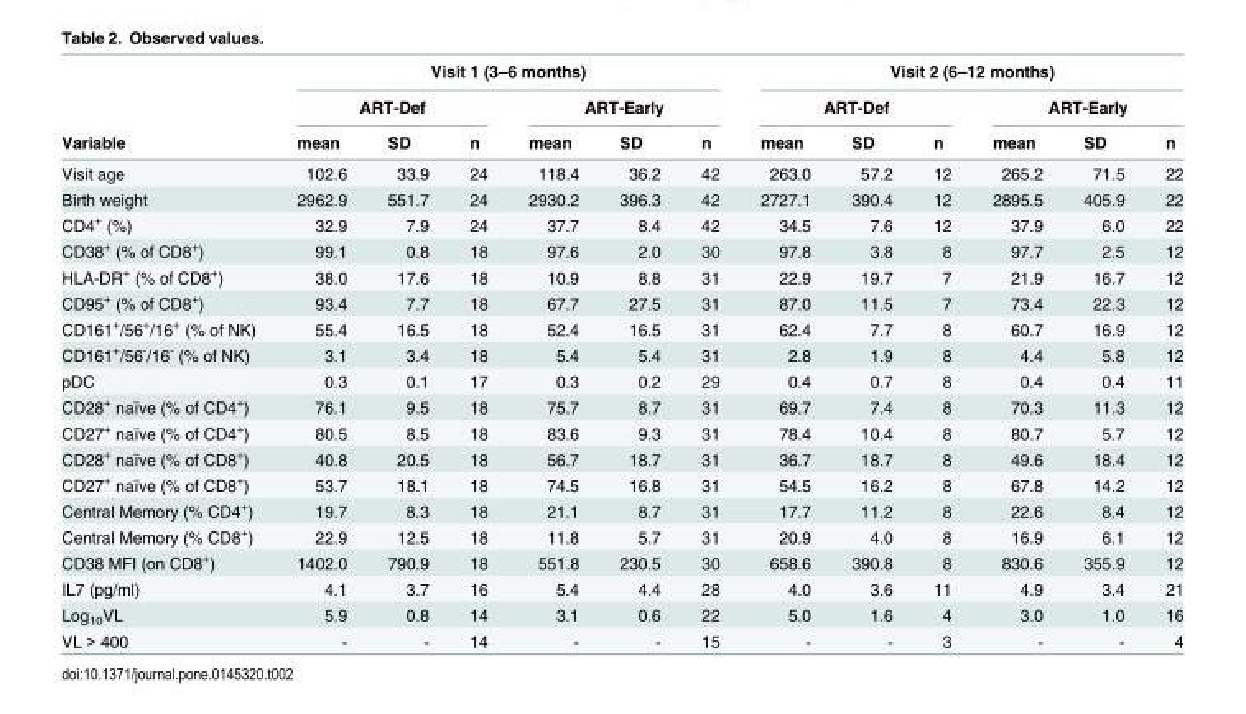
<table><thead><tr><td rowspan="3">Variable</td><td colspan="6">Visit 1 (3–6 months)</td><td colspan="6">Visit 2 (6–12 months)</td></tr><tr><td colspan="3">ART-Def</td><td colspan="3">ART-Early</td><td colspan="3">ART-Def</td><td colspan="3">ART-Early</td></tr><tr><td>mean</td><td>SD</td><td>n</td><td>mean</td><td>SD</td><td>n</td><td>mean</td><td>SD</td><td>n</td><td>mean</td><td>SD</td><td>n</td></tr></thead><tbody><tr><td>Visit age</td><td>102.6</td><td>33.9</td><td>24</td><td>118.4</td><td>36.2</td><td>42</td><td>263.0</td><td>57.2</td><td>12</td><td>265.2</td><td>71.5</td><td>22</td></tr><tr><td>Birth weight</td><td>2962.9</td><td>551.7</td><td>24</td><td>2930.2</td><td>396.3</td><td>42</td><td>2727.1</td><td>390.4</td><td>12</td><td>2895.5</td><td>405.9</td><td>22</td></tr><tr><td>CD4<sup>+</sup> (%)</td><td>32.9</td><td>7.9</td><td>24</td><td>37.7</td><td>8.4</td><td>42</td><td>34.5</td><td>7.6</td><td>12</td><td>37.9</td><td>6.0</td><td>22</td></tr><tr><td>CD38<sup>+</sup> (% of CD8<sup>+</sup>)</td><td>99.1</td><td>0.8</td><td>18</td><td>97.6</td><td>2.0</td><td>30</td><td>97.8</td><td>3.8</td><td>8</td><td>97.7</td><td>2.5</td><td>12</td></tr><tr><td>HLA-DR<sup>+</sup> (% of CD8<sup>+</sup>)</td><td>38.0</td><td>17.6</td><td>18</td><td>10.9</td><td>8.8</td><td>31</td><td>22.9</td><td>19.7</td><td>7</td><td>21.9</td><td>16.7</td><td>12</td></tr><tr><td>CD95<sup>+</sup> (% of CD8<sup>+</sup>)</td><td>93.4</td><td>7.7</td><td>18</td><td>67.7</td><td>27.5</td><td>31</td><td>87.0</td><td>11.5</td><td>7</td><td>73.4</td><td>22.3</td><td>12</td></tr><tr><td>CD161<sup>+</sup>/56<sup>+</sup>/16<sup>+</sup> (% of NK)</td><td>55.4</td><td>16.5</td><td>18</td><td>52.4</td><td>16.5</td><td>31</td><td>62.4</td><td>7.7</td><td>8</td><td>60.7</td><td>16.9</td><td>12</td></tr><tr><td>CD161<sup>+</sup>/56<sup>-</sup>/16<sup>-</sup> (% of NK)</td><td>3.1</td><td>3.4</td><td>18</td><td>5.4</td><td>5.4</td><td>31</td><td>2.8</td><td>1.9</td><td>8</td><td>4.4</td><td>5.8</td><td>12</td></tr><tr><td>pDC</td><td>0.3</td><td>0.1</td><td>17</td><td>0.3</td><td>0.2</td><td>29</td><td>0.4</td><td>0.7</td><td>8</td><td>0.4</td><td>0.4</td><td>11</td></tr><tr><td>CD28<sup>+</sup> naïve (% of CD4<sup>+</sup>)</td><td>76.1</td><td>9.5</td><td>18</td><td>75.7</td><td>8.7</td><td>31</td><td>69.7</td><td>7.4</td><td>8</td><td>70.3</td><td>11.3</td><td>12</td></tr><tr><td>CD27<sup>+</sup> naïve (% of CD4<sup>+</sup>)</td><td>80.5</td><td>8.5</td><td>18</td><td>83.6</td><td>9.3</td><td>31</td><td>78.4</td><td>10.4</td><td>8</td><td>80.7</td><td>5.7</td><td>12</td></tr><tr><td>CD28<sup>+</sup> naïve (% of CD8<sup>+</sup>)</td><td>40.8</td><td>20.5</td><td>18</td><td>56.7</td><td>18.7</td><td>31</td><td>36.7</td><td>18.7</td><td>8</td><td>49.6</td><td>18.4</td><td>12</td></tr><tr><td>CD27<sup>+</sup> naïve (% of CD8<sup>+</sup>)</td><td>53.7</td><td>18.1</td><td>18</td><td>74.5</td><td>16.8</td><td>31</td><td>54.5</td><td>16.2</td><td>8</td><td>67.8</td><td>14.2</td><td>12</td></tr><tr><td>Central Memory (% CD4<sup>+</sup>)</td><td>19.7</td><td>8.3</td><td>18</td><td>21.1</td><td>8.7</td><td>31</td><td>17.7</td><td>11.2</td><td>8</td><td>22.6</td><td>8.4</td><td>12</td></tr><tr><td>Central Memory (% CD8<sup>+</sup>)</td><td>22.9</td><td>12.5</td><td>18</td><td>11.8</td><td>5.7</td><td>31</td><td>20.9</td><td>4.0</td><td>8</td><td>16.9</td><td>6.1</td><td>12</td></tr><tr><td>CD38 MFI (on CD8<sup>+</sup>)</td><td>1402.0</td><td>790.9</td><td>18</td><td>551.8</td><td>230.5</td><td>30</td><td>658.6</td><td>390.8</td><td>8</td><td>830.6</td><td>355.9</td><td>12</td></tr><tr><td>IL7 (pg/ml)</td><td>4.1</td><td>3.7</td><td>16</td><td>5.4</td><td>4.4</td><td>28</td><td>4.0</td><td>3.6</td><td>11</td><td>4.9</td><td>3.4</td><td>21</td></tr><tr><td>Log<sub>10</sub>VL</td><td>5.9</td><td>0.8</td><td>14</td><td>3.1</td><td>0.6</td><td>22</td><td>5.0</td><td>1.6</td><td>4</td><td>3.0</td><td>1.0</td><td>16</td></tr><tr><td>VL &gt; 400</td><td>-</td><td>-</td><td>14</td><td>-</td><td>-</td><td>15</td><td>-</td><td>-</td><td>3</td><td>-</td><td>-</td><td>4</td></tr></tbody></table>